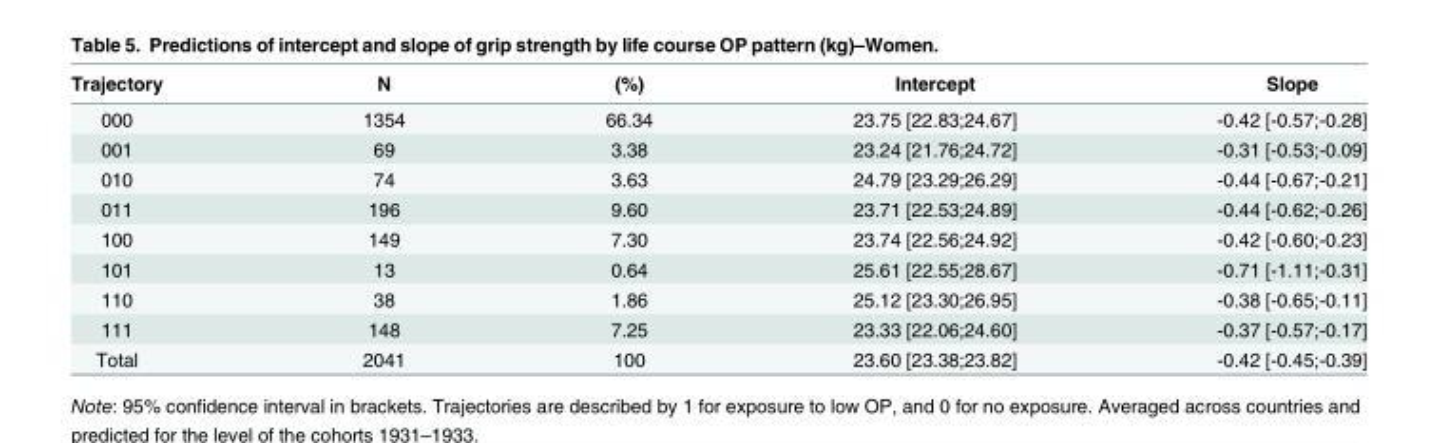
<table><thead><tr><td>Trajectory</td><td>N</td><td>(%)</td><td>Intercept</td><td>Slope</td></tr></thead><tbody><tr><td>000</td><td>1354</td><td>66.34</td><td>23.75 [22.83;24.67]</td><td>-0.42 [-0.57;-0.28]</td></tr><tr><td>001</td><td>69</td><td>3.38</td><td>23.24 [21.76;24.72]</td><td>-0.31 [-0.53;-0.09]</td></tr><tr><td>010</td><td>74</td><td>3.63</td><td>24.79 [23.29;26.29]</td><td>-0.44 [-0.67;-0.21]</td></tr><tr><td>011</td><td>196</td><td>9.60</td><td>23.71 [22.53;24.89]</td><td>-0.44 [-0.62;-0.26]</td></tr><tr><td>100</td><td>149</td><td>7.30</td><td>23.74 [22.56;24.92]</td><td>-0.42 [-0.60;-0.23]</td></tr><tr><td>101</td><td>13</td><td>0.64</td><td>25.61 [22.55;28.67]</td><td>-0.71 [-1.11;-0.31]</td></tr><tr><td>110</td><td>38</td><td>1.86</td><td>25.12 [23.30;26.95]</td><td>-0.38 [-0.65;-0.11]</td></tr><tr><td>111</td><td>148</td><td>7.25</td><td>23.33 [22.06;24.60]</td><td>-0.37 [-0.57;-0.17]</td></tr><tr><td>Total</td><td>2041</td><td>100</td><td>23.60 [23.38;23.82]</td><td>-0.42 [-0.45;-0.39]</td></tr></tbody></table>